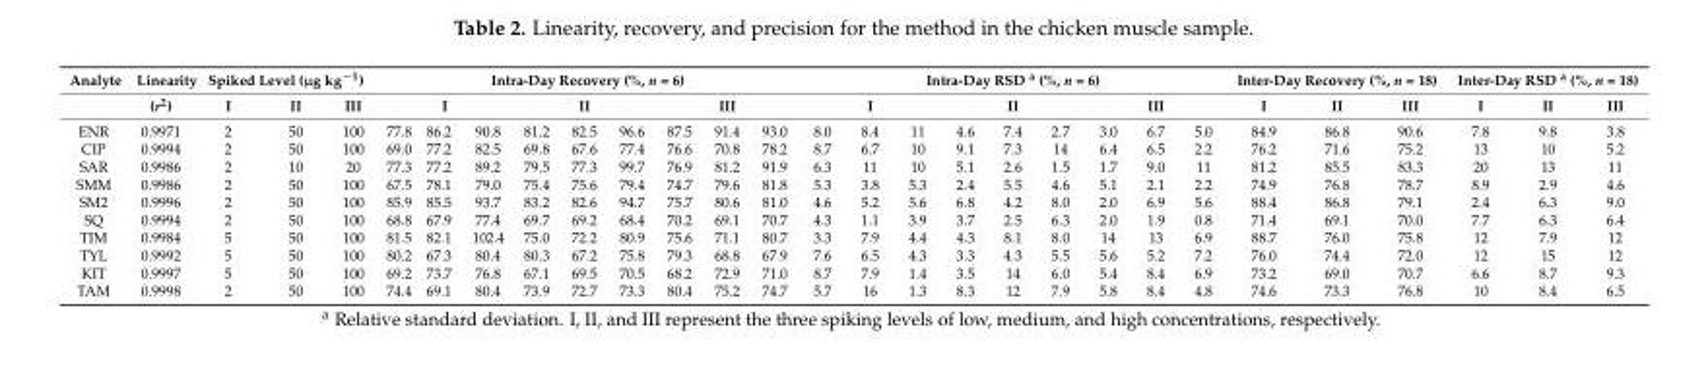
<table><thead><tr><td rowspan="3">Analyte ENR</td><td rowspan="3">Linearity (r<sup>2</sup>) 0.9971</td><td colspan="3">Spiked Level (µg kg<sup>−1</sup>)</td><td colspan="9">Intra-Day Recovery (%, n = 6)</td><td colspan="9">Intra-Day RSD <sup>a</sup> (%, n = 6)</td><td colspan="3">Inter-Day Recovery (%, n = 18)</td><td colspan="3">Inter-Day RSD <sup>a</sup> (%, n = 18)</td></tr><tr><td rowspan="2">I 2</td><td rowspan="2">II 50</td><td rowspan="2">III 100</td><td colspan="3">I</td><td colspan="3">II</td><td colspan="3">III</td><td colspan="3">I</td><td colspan="3">II</td><td colspan="3">III</td><td rowspan="2">I 84.9</td><td rowspan="2">II 86.8</td><td rowspan="2">III 90.6</td><td rowspan="2">I 7.8</td><td rowspan="2">II 9.8</td><td rowspan="2">III 3.8</td></tr><tr><td>77.8</td><td>86.2</td><td>90.8</td><td>81.2</td><td>82.5</td><td>96.6</td><td>87.5</td><td>91.4</td><td>93.0</td><td>8.0</td><td>8.4</td><td>11</td><td>4.6</td><td>7.4</td><td>2.7</td><td>3.0</td><td>6.7</td><td>5.0</td></tr></thead><tbody><tr><td>CIP</td><td>0.9994</td><td>2</td><td>50</td><td>100</td><td>69.0</td><td>77.2</td><td>82.5</td><td>69.8</td><td>67.6</td><td>77.4</td><td>76.6</td><td>70.8</td><td>78.2</td><td>8.7</td><td>6.7</td><td>10</td><td>9.1</td><td>7.3</td><td>14</td><td>6.4</td><td>6.5</td><td>2.2</td><td>76.2</td><td>71.6</td><td>75.2</td><td>13</td><td>10</td><td>5.2</td></tr><tr><td>SAR</td><td>0.9986</td><td>2</td><td>10</td><td>20</td><td>77.3</td><td>77.2</td><td>89.2</td><td>79.5</td><td>77.3</td><td>99.7</td><td>76.9</td><td>81.2</td><td>91.9</td><td>6.3</td><td>11</td><td>10</td><td>5.1</td><td>2.6</td><td>1.5</td><td>1.7</td><td>9.0</td><td>11</td><td>81.2</td><td>85.5</td><td>83.3</td><td>20</td><td>13</td><td>11</td></tr><tr><td>SMM</td><td>0.9986</td><td>2</td><td>50</td><td>100</td><td>67.5</td><td>78.1</td><td>79.0</td><td>75.4</td><td>75.6</td><td>79.4</td><td>74.7</td><td>79.6</td><td>81.8</td><td>5.3</td><td>3.8</td><td>5.3</td><td>2.4</td><td>5.5</td><td>4.6</td><td>5.1</td><td>2.1</td><td>2.2</td><td>74.9</td><td>76.8</td><td>78.7</td><td>8.9</td><td>2.9</td><td>4.6</td></tr><tr><td>SM2</td><td>0.9996</td><td>2</td><td>50</td><td>100</td><td>85.9</td><td>85.5</td><td>93.7</td><td>83.2</td><td>82.6</td><td>94.7</td><td>75.7</td><td>80.6</td><td>81.0</td><td>4.6</td><td>5.2</td><td>5.6</td><td>6.8</td><td>4.2</td><td>8.0</td><td>2.0</td><td>6.9</td><td>5.6</td><td>88.4</td><td>86.8</td><td>79.1</td><td>2.4</td><td>6.3</td><td>9.0</td></tr><tr><td>SQ</td><td>0.9994</td><td>2</td><td>50</td><td>100</td><td>68.8</td><td>67.9</td><td>77.4</td><td>69.7</td><td>69.2</td><td>68.4</td><td>70.2</td><td>69.1</td><td>70.7</td><td>4.3</td><td>1.1</td><td>3.9</td><td>3.7</td><td>2.5</td><td>6.3</td><td>2.0</td><td>1.9</td><td>0.8</td><td>71.4</td><td>69.1</td><td>70.0</td><td>7.7</td><td>6.3</td><td>6.4</td></tr><tr><td>TIM</td><td>0.9984</td><td>5</td><td>50</td><td>100</td><td>81.5</td><td>82.1</td><td>102.4</td><td>75.0</td><td>72.2</td><td>80.9</td><td>75.6</td><td>71.1</td><td>80.7</td><td>3.3</td><td>7.9</td><td>4.4</td><td>4.3</td><td>8.1</td><td>8.0</td><td>14</td><td>13</td><td>6.9</td><td>88.7</td><td>76.0</td><td>75.8</td><td>12</td><td>7.9</td><td>12</td></tr><tr><td>TYL</td><td>0.9992</td><td>5</td><td>50</td><td>100</td><td>80.2</td><td>67.3</td><td>80.4</td><td>80.3</td><td>67.2</td><td>75.8</td><td>79.3</td><td>68.8</td><td>67.9</td><td>7.6</td><td>6.5</td><td>4.3</td><td>3.3</td><td>4.3</td><td>5.5</td><td>5.6</td><td>5.2</td><td>7.2</td><td>76.0</td><td>74.4</td><td>72.0</td><td>12</td><td>15</td><td>12</td></tr><tr><td>KIT</td><td>0.9997</td><td>5</td><td>50</td><td>100</td><td>69.2</td><td>73.7</td><td>76.8</td><td>67.1</td><td>69.5</td><td>70.5</td><td>68.2</td><td>72.9</td><td>71.0</td><td>8.7</td><td>7.9</td><td>1.4</td><td>3.5</td><td>14</td><td>6.0</td><td>5.4</td><td>8.4</td><td>6.9</td><td>73.2</td><td>69.0</td><td>70.7</td><td>6.6</td><td>8.7</td><td>9.3</td></tr><tr><td>TAM</td><td>0.9998</td><td>2</td><td>50</td><td>100</td><td>74.4</td><td>69.1</td><td>80.4</td><td>73.9</td><td>72.7</td><td>73.3</td><td>80.4</td><td>75.2</td><td>74.7</td><td>5.7</td><td>16</td><td>1.3</td><td>8.3</td><td>12</td><td>7.9</td><td>5.8</td><td>8.4</td><td>4.8</td><td>74.6</td><td>73.3</td><td>76.8</td><td>10</td><td>8.4</td><td>6.5</td></tr></tbody></table>